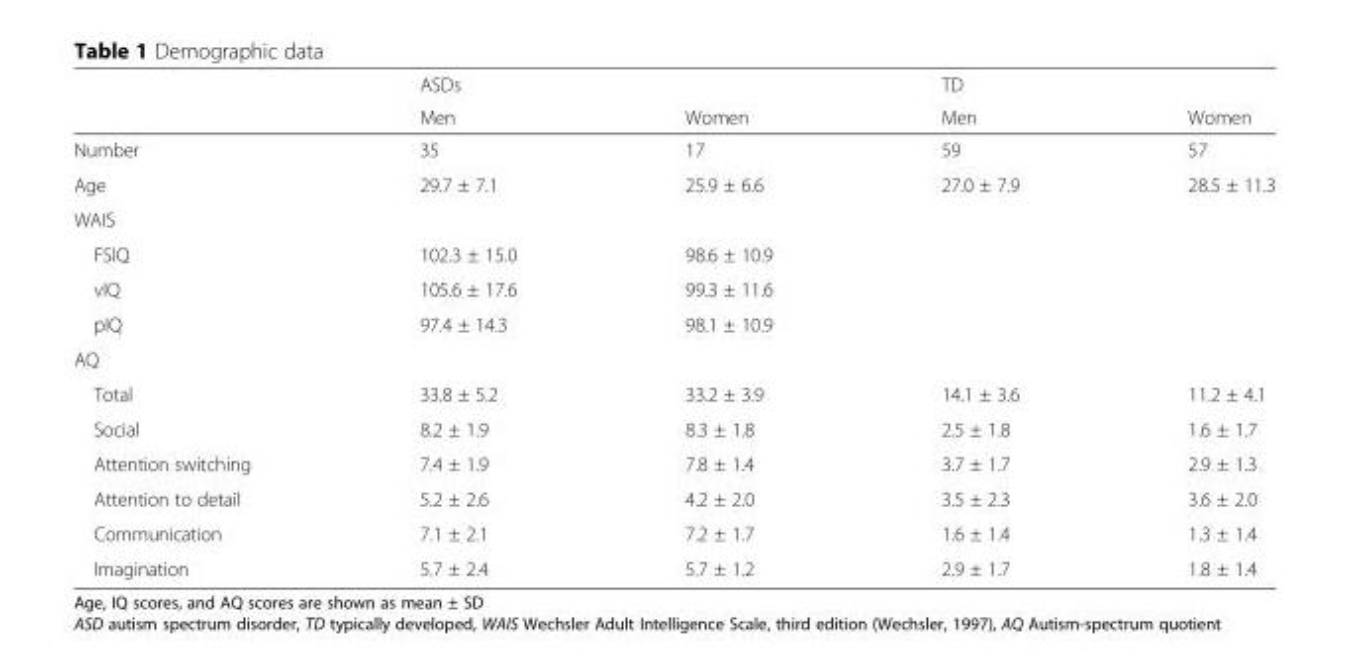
<table><thead><tr><td rowspan="2"></td><td colspan="2">ASDs</td><td colspan="2">TD</td></tr><tr><td>Men</td><td>Women</td><td>Men</td><td>Women</td></tr></thead><tbody><tr><td>Number</td><td>35</td><td>17</td><td>59</td><td>57</td></tr><tr><td>Age</td><td>29.7 ± 7.1</td><td>25.9 ± 6.6</td><td>27.0 ± 7.9</td><td>28.5 ± 11.3</td></tr><tr><td colspan="5">WAIS</td></tr><tr><td>FSIQ</td><td>102.3 ± 15.0</td><td>98.6 ± 10.9</td><td></td><td></td></tr><tr><td>vIQ</td><td>105.6 ± 17.6</td><td>99.3 ± 11.6</td><td></td><td></td></tr><tr><td>pIQ</td><td>97.4 ± 14.3</td><td>98.1 ± 10.9</td><td></td><td></td></tr><tr><td colspan="5">AQ</td></tr><tr><td>Total</td><td>33.8 ± 5.2</td><td>33.2 ± 3.9</td><td>14.1 ± 3.6</td><td>11.2 ± 4.1</td></tr><tr><td>Social</td><td>8.2 ± 1.9</td><td>8.3 ± 1.8</td><td>2.5 ± 1.8</td><td>1.6 ± 1.7</td></tr><tr><td>Attention switching</td><td>7.4 ± 1.9</td><td>7.8 ± 1.4</td><td>3.7 ± 1.7</td><td>2.9 ± 1.3</td></tr><tr><td>Attention to detail</td><td>5.2 ± 2.6</td><td>4.2 ± 2.0</td><td>3.5 ± 2.3</td><td>3.6 ± 2.0</td></tr><tr><td>Communication</td><td>7.1 ± 2.1</td><td>7.2 ± 1.7</td><td>1.6 ± 1.4</td><td>1.3 ± 1.4</td></tr><tr><td>Imagination</td><td>5.7 ± 2.4</td><td>5.7 ± 1.2</td><td>2.9 ± 1.7</td><td>1.8 ± 1.4</td></tr></tbody></table>